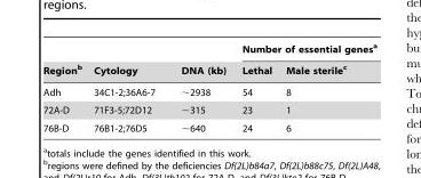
<table><thead><tr><td rowspan="2">Region<sup>b</sup></td><td rowspan="2">Cytology</td><td rowspan="2">DNA (kb)</td><td colspan="2">Number of essential genes<sup>a</sup></td></tr><tr><td>Lethal</td><td>Male sterile<sup>c</sup></td></tr></thead><tbody><tr><td>Adh</td><td>34C1-2;36A6-7</td><td>∼2938</td><td>54</td><td>8</td></tr><tr><td>72A-D</td><td>71F3-5;72D12</td><td>∼315</td><td>23</td><td>1</td></tr><tr><td>76B-D</td><td>76B1-2;76D5</td><td>∼640</td><td>24</td><td>6</td></tr></tbody></table>